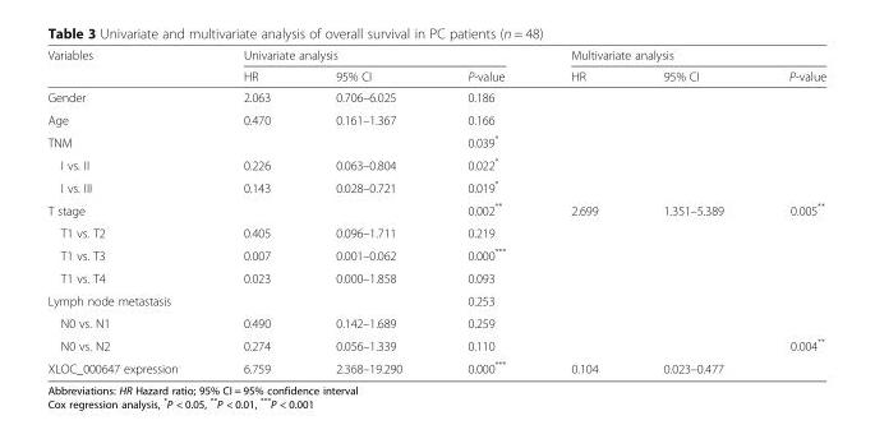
<table><thead><tr><td rowspan="2">Variables</td><td colspan="3">Univariate analysis</td><td colspan="3">Multivariate analysis</td></tr><tr><td>HR</td><td>95% CI</td><td>P-value</td><td>HR</td><td>95% CI</td><td>P-value</td></tr></thead><tbody><tr><td>Gender</td><td>2.063</td><td>0.706–6.025</td><td>0.186</td><td></td><td></td><td></td></tr><tr><td>Age</td><td>0.470</td><td>0.161–1.367</td><td>0.166</td><td></td><td></td><td></td></tr><tr><td>TNM</td><td></td><td></td><td>0.039*</td><td></td><td></td><td></td></tr><tr><td>I vs. II</td><td>0.226</td><td>0.063–0.804</td><td>0.022*</td><td></td><td></td><td></td></tr><tr><td>I vs. III</td><td>0.143</td><td>0.028–0.721</td><td>0.019*</td><td></td><td></td><td></td></tr><tr><td>T stage</td><td></td><td></td><td>0.002**</td><td>2.699</td><td>1.351–5.389</td><td>0.005**</td></tr><tr><td>T1 vs. T2</td><td>0.405</td><td>0.096–1.711</td><td>0.219</td><td></td><td></td><td></td></tr><tr><td>T1 vs. T3</td><td>0.007</td><td>0.001–0.062</td><td>0.000***</td><td></td><td></td><td></td></tr><tr><td>T1 vs. T4</td><td>0.023</td><td>0.000–1.858</td><td>0.093</td><td></td><td></td><td></td></tr><tr><td>Lymph node metastasis</td><td></td><td></td><td>0.253</td><td></td><td></td><td></td></tr><tr><td>N0 vs. N1</td><td>0.490</td><td>0.142–1.689</td><td>0.259</td><td></td><td></td><td></td></tr><tr><td>N0 vs. N2</td><td>0.274</td><td>0.056–1.339</td><td>0.110</td><td></td><td></td><td>0.004**</td></tr><tr><td>XLOC_000647 expression</td><td>6.759</td><td>2.368–19.290</td><td>0.000***</td><td>0.104</td><td>0.023–0.477</td><td></td></tr></tbody></table>